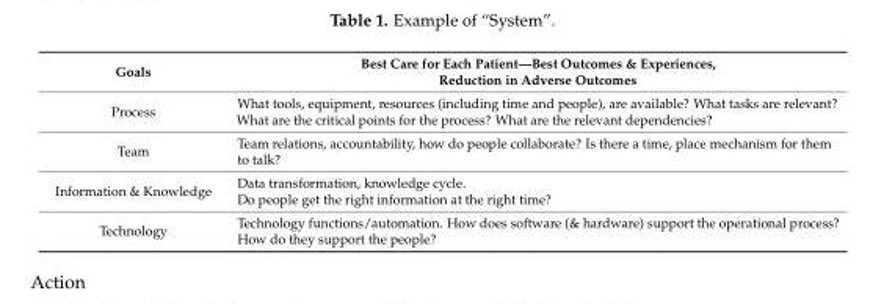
<table><thead><tr><td>Goals</td><td>Best Care for Each Patient—Best Outcomes &amp; Experiences, Reduction in Adverse Outcomes</td></tr></thead><tbody><tr><td>Process</td><td>What tools, equipment, resources (including time and people), are available? What tasks are relevant? What are the critical points for the process? What are the relevant dependencies?</td></tr><tr><td>Team</td><td>Team relations, accountability, how do people collaborate? Is there a time, place mechanism for them to talk?</td></tr><tr><td>Information &amp; Knowledge</td><td>Data transformation, knowledge cycle. Do people get the right information at the right time?</td></tr><tr><td>Technology</td><td>Technology functions/automation. How does software (&amp; hardware) support the operational process? How do they support the people?</td></tr></tbody></table>